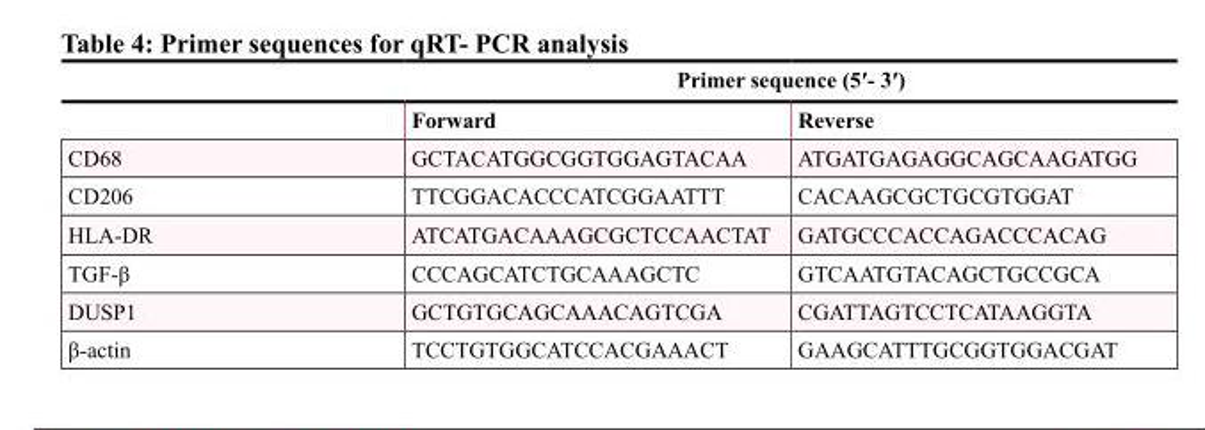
<table><thead><tr><td rowspan="2"></td><td colspan="2">Primer sequence (5′- 3′)</td></tr><tr><td>Forward</td><td>Reverse</td></tr></thead><tbody><tr><td>CD68</td><td>GCTACATGGCGGTGGAGTACAA</td><td>ATGATGAGAGGCAGCAAGATGG</td></tr><tr><td>CD206</td><td>TTCGGACACCCATCGGAATTT</td><td>CACAAGCGCTGCGTGGAT</td></tr><tr><td>HLA-DR</td><td>ATCATGACAAAGCGCTCCAACTAT</td><td>GATGCCCACCAGACCCACAG</td></tr><tr><td>TGF-β</td><td>CCCAGCATCTGCAAAGCTC</td><td>GTCAATGTACAGCTGCCGCA</td></tr><tr><td>DUSP1</td><td>GCTGTGCAGCAAACAGTCGA</td><td>CGATTAGTCCTCATAAGGTA</td></tr><tr><td>β-actin</td><td>TCCTGTGGCATCCACGAAACT</td><td>GAAGCATTTGCGGTGGACGAT</td></tr></tbody></table>